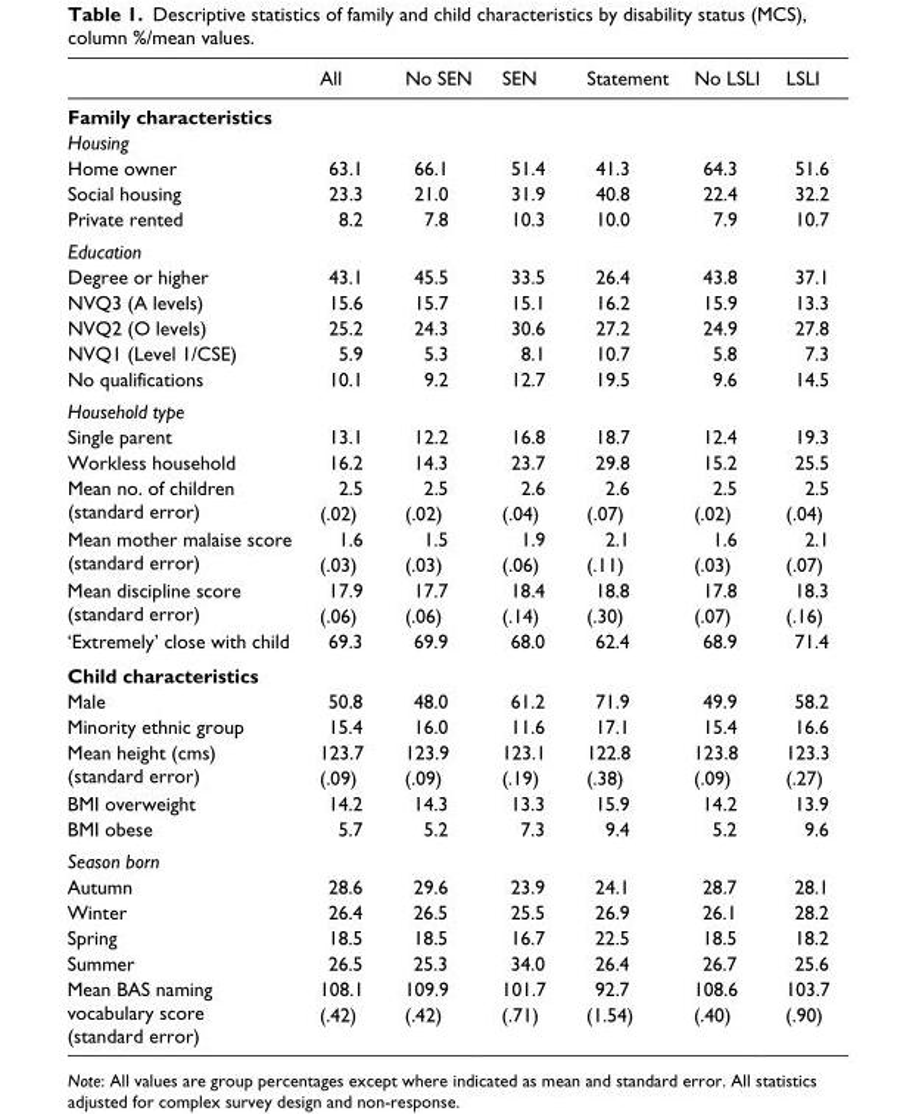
<table><thead><tr><td></td><td>All</td><td>No SEN</td><td>SEN</td><td>Statement</td><td>No LSLI</td><td>LSLI</td></tr></thead><tbody><tr><td colspan="7">Family characteristics</td></tr><tr><td colspan="7">Housing</td></tr><tr><td>Home owner</td><td>63.1</td><td>66.1</td><td>51.4</td><td>41.3</td><td>64.3</td><td>51.6</td></tr><tr><td>Social housing</td><td>23.3</td><td>21.0</td><td>31.9</td><td>40.8</td><td>22.4</td><td>32.2</td></tr><tr><td>Private rented</td><td>8.2</td><td>7.8</td><td>10.3</td><td>10.0</td><td>7.9</td><td>10.7</td></tr><tr><td colspan="7">Education</td></tr><tr><td>Degree or higher</td><td>43.1</td><td>45.5</td><td>33.5</td><td>26.4</td><td>43.8</td><td>37.1</td></tr><tr><td>NVQ3 (A levels)</td><td>15.6</td><td>15.7</td><td>15.1</td><td>16.2</td><td>15.9</td><td>13.3</td></tr><tr><td>NVQ2 (O levels)</td><td>25.2</td><td>24.3</td><td>30.6</td><td>27.2</td><td>24.9</td><td>27.8</td></tr><tr><td>NVQ1 (Level 1/CSE)</td><td>5.9</td><td>5.3</td><td>8.1</td><td>10.7</td><td>5.8</td><td>7.3</td></tr><tr><td>No qualifications</td><td>10.1</td><td>9.2</td><td>12.7</td><td>19.5</td><td>9.6</td><td>14.5</td></tr><tr><td colspan="7">Household type</td></tr><tr><td>Single parent</td><td>13.1</td><td>12.2</td><td>16.8</td><td>18.7</td><td>12.4</td><td>19.3</td></tr><tr><td>Workless household</td><td>16.2</td><td>14.3</td><td>23.7</td><td>29.8</td><td>15.2</td><td>25.5</td></tr><tr><td rowspan="2">Mean no. of children (standard error)</td><td>2.5</td><td>2.5</td><td>2.6</td><td>2.6</td><td>2.5</td><td>2.5</td></tr><tr><td>(.02)</td><td>(.02)</td><td>(.04)</td><td>(.07)</td><td>(.02)</td><td>(.04)</td></tr><tr><td rowspan="2">Mean mother malaise score (standard error)</td><td>1.6</td><td>1.5</td><td>1.9</td><td>2.1</td><td>1.6</td><td>2.1</td></tr><tr><td>(.03)</td><td>(.03)</td><td>(.06)</td><td>(.11)</td><td>(.03)</td><td>(.07)</td></tr><tr><td rowspan="2">Mean discipline score (standard error)</td><td>17.9</td><td>17.7</td><td>18.4</td><td>18.8</td><td>17.8</td><td>18.3</td></tr><tr><td>(.06)</td><td>(.06)</td><td>(.14)</td><td>(.30)</td><td>(.07)</td><td>(.16)</td></tr><tr><td>‘Extremely’ close with child</td><td>69.3</td><td>69.9</td><td>68.0</td><td>62.4</td><td>68.9</td><td>71.4</td></tr><tr><td colspan="7">Child characteristics</td></tr><tr><td>Male</td><td>50.8</td><td>48.0</td><td>61.2</td><td>71.9</td><td>49.9</td><td>58.2</td></tr><tr><td>Minority ethnic group</td><td>15.4</td><td>16.0</td><td>11.6</td><td>17.1</td><td>15.4</td><td>16.6</td></tr><tr><td rowspan="2">Mean height (cms) (standard error)</td><td>123.7</td><td>123.9</td><td>123.1</td><td>122.8</td><td>123.8</td><td>123.3</td></tr><tr><td>(.09)</td><td>(.09)</td><td>(.19)</td><td>(.38)</td><td>(.09)</td><td>(.27)</td></tr><tr><td>BMI overweight</td><td>14.2</td><td>14.3</td><td>13.3</td><td>15.9</td><td>14.2</td><td>13.9</td></tr><tr><td>BMI obese</td><td>5.7</td><td>5.2</td><td>7.3</td><td>9.4</td><td>5.2</td><td>9.6</td></tr><tr><td colspan="7">Season born</td></tr><tr><td>Autumn</td><td>28.6</td><td>29.6</td><td>23.9</td><td>24.1</td><td>28.7</td><td>28.1</td></tr><tr><td>Winter</td><td>26.4</td><td>26.5</td><td>25.5</td><td>26.9</td><td>26.1</td><td>28.2</td></tr><tr><td>Spring</td><td>18.5</td><td>18.5</td><td>16.7</td><td>22.5</td><td>18.5</td><td>18.2</td></tr><tr><td>Summer</td><td>26.5</td><td>25.3</td><td>34.0</td><td>26.4</td><td>26.7</td><td>25.6</td></tr><tr><td rowspan="2">Mean BAS naming vocabulary score (standard error)</td><td>108.1</td><td>109.9</td><td>101.7</td><td>92.7</td><td>108.6</td><td>103.7</td></tr><tr><td>(.42)</td><td>(.42)</td><td>(.71)</td><td>(1.54)</td><td>(.40)</td><td>(.90)</td></tr></tbody></table>